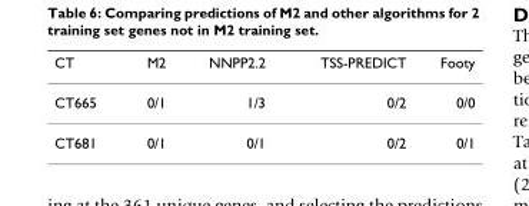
<table><thead><tr><td>CT</td><td>M2</td><td>NNPP2.2</td><td>TSS-PREDICT</td><td>Footy</td></tr></thead><tbody><tr><td>CT665</td><td>0/1</td><td>1/3</td><td>0/2</td><td>0/0</td></tr><tr><td>CT681</td><td>0/1</td><td>0/1</td><td>0/2</td><td>0/1</td></tr></tbody></table>